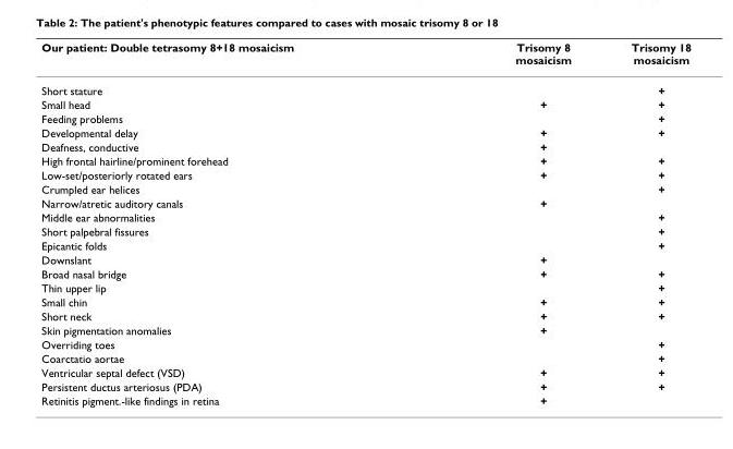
<table><thead><tr><td>Our patient: Double tetrasomy 8+18 mosaicism</td><td>Trisomy 8 mosaicism</td><td>Trisomy 18 mosaicism</td></tr></thead><tbody><tr><td>Short stature</td><td></td><td>+</td></tr><tr><td>Small head</td><td>+</td><td>+</td></tr><tr><td>Feeding problems</td><td></td><td>+</td></tr><tr><td>Developmental delay</td><td>+</td><td>+</td></tr><tr><td>Deafness, conductive</td><td>+</td><td></td></tr><tr><td>High frontal hairline/prominent forehead</td><td>+</td><td>+</td></tr><tr><td>Low-set/posteriorly rotated ears</td><td>+</td><td>+</td></tr><tr><td>Crumpled ear helices</td><td></td><td>+</td></tr><tr><td>Narrow/atretic auditory canals</td><td>+</td><td></td></tr><tr><td>Middle ear abnormalities</td><td></td><td>+</td></tr><tr><td>Short palpebral fissures</td><td></td><td>+</td></tr><tr><td>Epicantic folds</td><td></td><td>+</td></tr><tr><td>Downslant</td><td>+</td><td></td></tr><tr><td>Broad nasal bridge</td><td>+</td><td>+</td></tr><tr><td>Thin upper lip</td><td></td><td>+</td></tr><tr><td>Small chin</td><td>+</td><td>+</td></tr><tr><td>Short neck</td><td>+</td><td>+</td></tr><tr><td>Skin pigmentation anomalies</td><td>+</td><td></td></tr><tr><td>Overriding toes</td><td></td><td>+</td></tr><tr><td>Coarctatio aortae</td><td></td><td>+</td></tr><tr><td>Ventricular septal defect (VSD)</td><td>+</td><td>+</td></tr><tr><td>Persistent ductus arteriosus (PDA)</td><td>+</td><td>+</td></tr><tr><td>Retinitis pigment.-like findings in retina</td><td>+</td><td></td></tr></tbody></table>